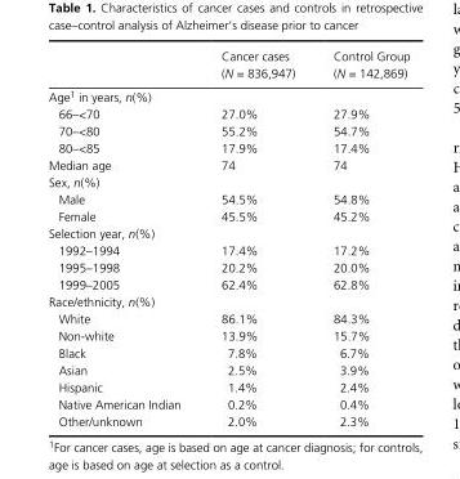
<table><thead><tr><td></td><td>Cancer cases (N = 836,947)</td><td>Control Group (N = 142,869)</td></tr></thead><tbody><tr><td colspan="3">Age1 in years, n(%)</td></tr><tr><td>66–&lt;70</td><td>27.0%</td><td>27.9%</td></tr><tr><td>70–&lt;80</td><td>55.2%</td><td>54.7%</td></tr><tr><td>80–&lt;85</td><td>17.9%</td><td>17.4%</td></tr><tr><td>Median age</td><td>74</td><td>74</td></tr><tr><td colspan="3">Sex, n(%)</td></tr><tr><td>Male</td><td>54.5%</td><td>54.8%</td></tr><tr><td>Female</td><td>45.5%</td><td>45.2%</td></tr><tr><td colspan="3">Selection year, n(%)</td></tr><tr><td>1992–1994</td><td>17.4%</td><td>17.2%</td></tr><tr><td>1995–1998</td><td>20.2%</td><td>20.0%</td></tr><tr><td>1999–2005</td><td>62.4%</td><td>62.8%</td></tr><tr><td colspan="3">Race/ethnicity, n(%)</td></tr><tr><td>White</td><td>86.1%</td><td>84.3%</td></tr><tr><td>Non- white</td><td>13.9%</td><td>15.7%</td></tr><tr><td>Black</td><td>7.8%</td><td>6.7%</td></tr><tr><td>Asian</td><td>2.5%</td><td>3.9%</td></tr><tr><td>Hispanic</td><td>1.4%</td><td>2.4%</td></tr><tr><td>Native American Indian</td><td>0.2%</td><td>0.4%</td></tr><tr><td>Other/unknown</td><td>2.0%</td><td>2.3%</td></tr></tbody></table>